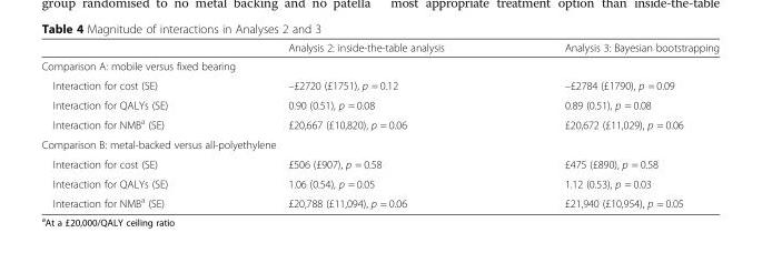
<table><thead><tr><td></td><td>Analysis 2: inside-the-table analysis</td><td>Analysis 3: Bayesian bootstrapping</td></tr></thead><tbody><tr><td colspan="3">Comparison A: mobile versus fixed bearing</td></tr><tr><td>Interaction for cost (SE)</td><td>–£2720 (£1751), p = 0.12</td><td>–£2784 (£1790), p = 0.09</td></tr><tr><td>Interaction for QALYs (SE)</td><td>0.90 (0.51), p = 0.08</td><td>0.89 (0.51), p = 0.08</td></tr><tr><td>Interaction for NMB<sup>a</sup> (SE)</td><td>£20,667 (£10,820), p = 0.06</td><td>£20,672 (£11,029), p = 0.06</td></tr><tr><td colspan="3">Comparison B: metal-backed versus all-polyethylene</td></tr><tr><td>Interaction for cost (SE)</td><td>£506 (£907), p = 0.58</td><td>£475 (£890), p = 0.58</td></tr><tr><td>Interaction for QALYs (SE)</td><td>1.06 (0.54), p = 0.05</td><td>1.12 (0.53), p = 0.03</td></tr><tr><td>Interaction for NMB<sup>a</sup> (SE)</td><td>£20,788 (£11,094), p = 0.06</td><td>£21,940 (£10,954), p = 0.05</td></tr></tbody></table>